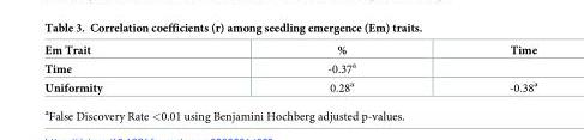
<table><thead><tr><td>Em Trait</td><td>%</td><td>Time</td></tr></thead><tbody><tr><td>Time</td><td>-0.37<sup>a</sup></td><td></td></tr><tr><td>Uniformity</td><td>0.28<sup>a</sup></td><td>-0.38<sup>a</sup></td></tr></tbody></table>